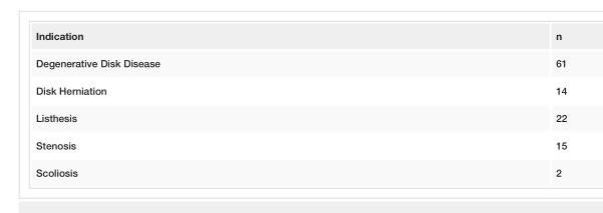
<table><tbody><tr><td>Indication</td><td>n</td></tr><tr><td>Degenerative Disk Disease</td><td>61</td></tr><tr><td>Disk Herniation</td><td>14</td></tr><tr><td>Listhesis</td><td>22</td></tr><tr><td>Stenosis</td><td>15</td></tr><tr><td>Scoliosis</td><td>2</td></tr></tbody></table>